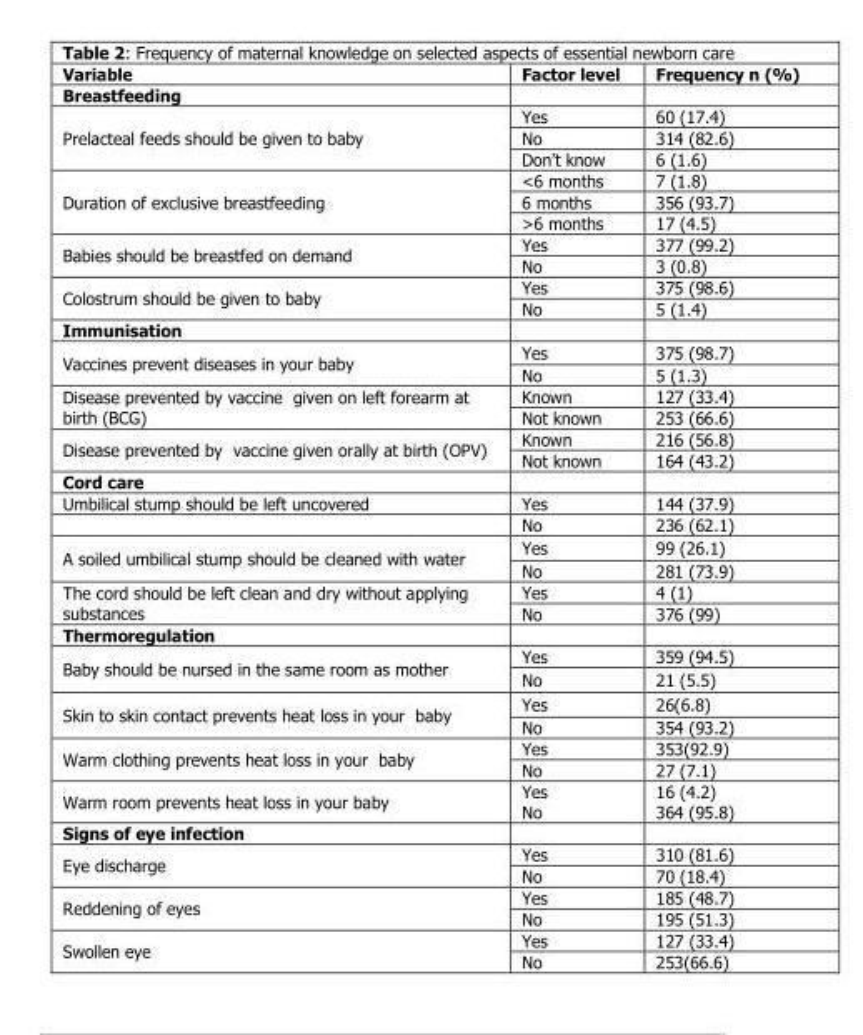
<table><thead><tr><td>Variable</td><td>Factor level</td><td>Frequency n (%)</td></tr></thead><tbody><tr><td colspan="3">Breastfeeding</td></tr><tr><td rowspan="3">Prelacteal feeds should be given to baby</td><td>Yes</td><td>60 (17.4)</td></tr><tr><td>No</td><td>314 (82.6)</td></tr><tr><td>Don’t know</td><td>6 (1.6)</td></tr><tr><td rowspan="3">Duration of exclusive breastfeeding</td><td>&lt;6 months</td><td>7 (1.8)</td></tr><tr><td>6 months</td><td>356 (93.7)</td></tr><tr><td>&gt;6 months</td><td>17 (4.5)</td></tr><tr><td rowspan="2">Babies should be breastfed on demand</td><td>Yes</td><td>377 (99.2)</td></tr><tr><td>No</td><td>3 (0.8)</td></tr><tr><td rowspan="2">Colostrum should be given to baby</td><td>Yes</td><td>375 (98.6)</td></tr><tr><td>No</td><td>5 (1.4)</td></tr><tr><td colspan="3">Immunisation</td></tr><tr><td rowspan="2">Vaccines prevent diseases in your baby</td><td>Yes</td><td>375 (98.7)</td></tr><tr><td>No</td><td>5 (1.3)</td></tr><tr><td rowspan="2">Disease prevented by vaccine given on left forearm at birth (BCG)</td><td>Known</td><td>127 (33.4)</td></tr><tr><td>Not known</td><td>253 (66.6)</td></tr><tr><td rowspan="2">Disease prevented by vaccine given orally at birth (OPV)</td><td>Known</td><td>216 (56.8)</td></tr><tr><td>Not known</td><td>164 (43.2)</td></tr><tr><td colspan="3">Cord care</td></tr><tr><td rowspan="2">Umbilical stump should be left uncovered</td><td>Yes</td><td>144 (37.9)</td></tr><tr><td>No</td><td>236 (62.1)</td></tr><tr><td rowspan="2">A soiled umbilical stump should be cleaned with water</td><td>Yes</td><td>99 (26.1)</td></tr><tr><td>No</td><td>281 (73.9)</td></tr><tr><td rowspan="2">The cord should be left clean and dry without applying substances</td><td>Yes</td><td>4 (1)</td></tr><tr><td>No</td><td>376 (99)</td></tr><tr><td colspan="3">Thermoregulation</td></tr><tr><td rowspan="2">Baby should be nursed in the same room as mother</td><td>Yes</td><td>359 (94.5)</td></tr><tr><td>No</td><td>21 (5.5)</td></tr><tr><td rowspan="2">Skin to skin contact prevents heat loss in your baby</td><td>Yes</td><td>26(6.8)</td></tr><tr><td>No</td><td>354 (93.2)</td></tr><tr><td rowspan="2">Warm clothing prevents heat loss in your baby</td><td>Yes</td><td>353(92.9)</td></tr><tr><td>No</td><td>27 (7.1)</td></tr><tr><td>Warm room prevents heat loss in your baby</td><td>Yes No</td><td>16 (4.2) 364 (95.8)</td></tr><tr><td colspan="3">Signs of eye infection</td></tr><tr><td rowspan="2">Eye discharge</td><td>Yes</td><td>310 (81.6)</td></tr><tr><td>No</td><td>70 (18.4)</td></tr><tr><td rowspan="2">Reddening of eyes</td><td>Yes</td><td>185 (48.7)</td></tr><tr><td>No</td><td>195 (51.3)</td></tr><tr><td rowspan="2">Swollen eye</td><td>Yes</td><td>127 (33.4)</td></tr><tr><td>No</td><td>253(66.6)</td></tr></tbody></table>